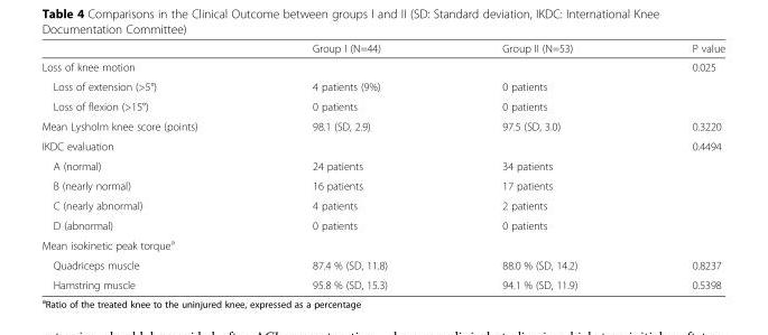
<table><thead><tr><td></td><td>Group I (N=44)</td><td>Group II (N=53)</td><td>P value</td></tr></thead><tbody><tr><td colspan="3">Loss of knee motion</td><td rowspan="3">0.025</td></tr><tr><td>Loss of extension (&gt;5°)</td><td>4 patients (9%)</td><td>0 patients</td></tr><tr><td>Loss of flexion (&gt;15°)</td><td>0 patients</td><td>0 patients</td></tr><tr><td>Mean Lysholm knee score (points)</td><td>98.1 (SD, 2.9)</td><td>97.5 (SD, 3.0)</td><td>0.3220</td></tr><tr><td>IKDC evaluation</td><td></td><td></td><td>0.4494</td></tr><tr><td>A (normal)</td><td>24 patients</td><td>34 patients</td><td></td></tr><tr><td>B (nearly normal)</td><td>16 patients</td><td>17 patients</td><td></td></tr><tr><td>C (nearly abnormal)</td><td>4 patients</td><td>2 patients</td><td></td></tr><tr><td>D (abnormal)</td><td>0 patients</td><td>0 patients</td><td></td></tr><tr><td colspan="4">Mean isokinetic peak torque<sup>a</sup></td></tr><tr><td>Quadriceps muscle</td><td>87.4 % (SD, 11.8)</td><td>88.0 % (SD, 14.2)</td><td>0.8237</td></tr><tr><td>Hamstring muscle</td><td>95.8 % (SD, 15.3)</td><td>94.1 % (SD, 11.9)</td><td>0.5398</td></tr></tbody></table>